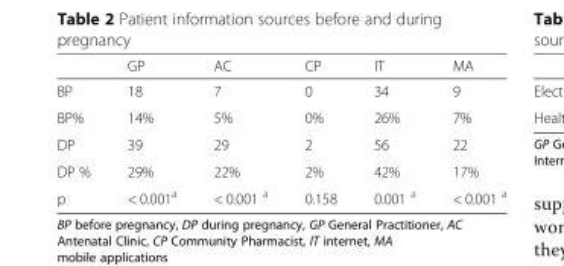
<table><thead><tr><td></td><td>GP</td><td>AC</td><td>CP</td><td>IT</td><td>MA</td></tr></thead><tbody><tr><td>BP</td><td>18</td><td>7</td><td>0</td><td>34</td><td>9</td></tr><tr><td>BP%</td><td>14%</td><td>5%</td><td>0%</td><td>26%</td><td>7%</td></tr><tr><td>DP</td><td>39</td><td>29</td><td>2</td><td>56</td><td>22</td></tr><tr><td>DP %</td><td>29%</td><td>22%</td><td>2%</td><td>42%</td><td>17%</td></tr><tr><td>p</td><td>&lt; 0.001<sup>a</sup></td><td>&lt; 0.001 <sup>a</sup></td><td>0.158</td><td>0.001 <sup>a</sup></td><td>&lt; 0.001 <sup>a</sup></td></tr></tbody></table>